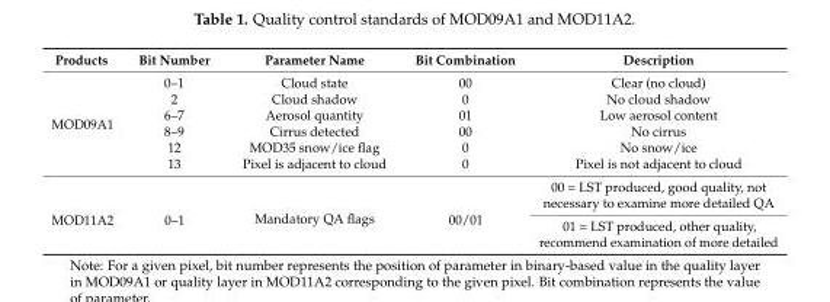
<table><thead><tr><td>Products</td><td>Bit Number</td><td>Parameter Name</td><td>Bit Combination</td><td>Description</td></tr></thead><tbody><tr><td rowspan="6">MOD09A1</td><td>0–1</td><td>Cloud state</td><td>00</td><td>Clear (no cloud)</td></tr><tr><td>2</td><td>Cloud shadow</td><td>0</td><td>No cloud shadow</td></tr><tr><td>6–7</td><td>Aerosol quantity</td><td>01</td><td>Low aerosol content</td></tr><tr><td>8–9</td><td>Cirrus detected</td><td>00</td><td>No cirrus</td></tr><tr><td>12</td><td>MOD35 snow/ice flag</td><td>0</td><td>No snow/ice</td></tr><tr><td>13</td><td>Pixel is adjacent to cloud</td><td>0</td><td>Pixel is not adjacent to cloud</td></tr><tr><td rowspan="2">MOD11A2</td><td rowspan="2">0–1</td><td rowspan="2">Mandatory QA flags</td><td rowspan="2">00/01</td><td>00 = LST produced, good quality, not necessary to examine more detailed QA</td></tr><tr><td>01 = LST produced, other quality, recommend examination of more detailed</td></tr></tbody></table>